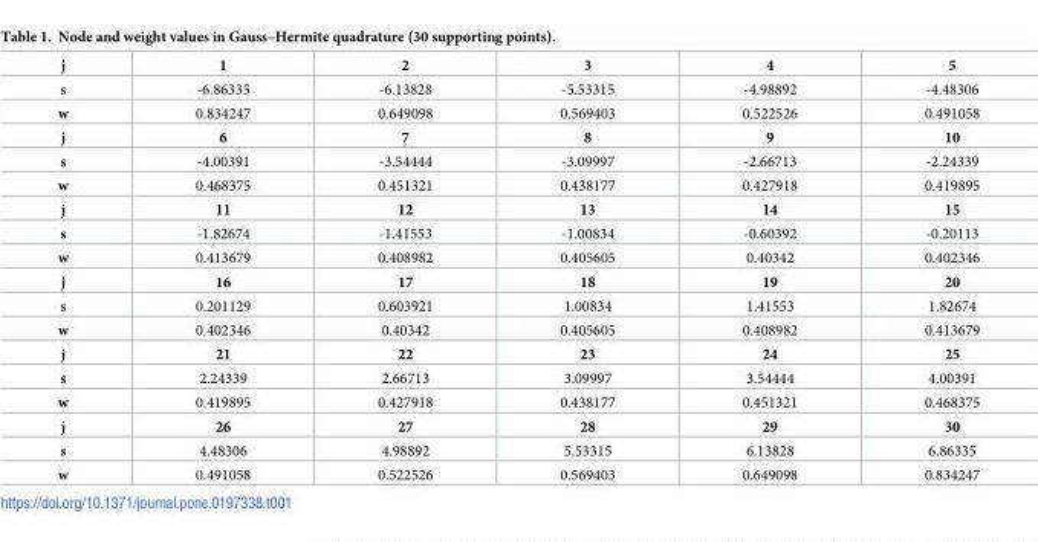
<table><tbody><tr><td>j</td><td>1</td><td>2</td><td>3</td><td>4</td><td>5</td></tr><tr><td>s</td><td>-6.86335</td><td>-6.13828</td><td>-5.53315</td><td>-4.98892</td><td>-4.48306</td></tr><tr><td>w</td><td>0.834247</td><td>0.649098</td><td>0.569403</td><td>0.522526</td><td>0.491058</td></tr><tr><td>j</td><td>6</td><td>7</td><td>8</td><td>9</td><td>10</td></tr><tr><td>s</td><td>-4.00391</td><td>-3.54444</td><td>-3.09997</td><td>-2.66713</td><td>-2.24339</td></tr><tr><td>w</td><td>0.468375</td><td>0.451321</td><td>0.438177</td><td>0.427918</td><td>0.419895</td></tr><tr><td>j</td><td>11</td><td>12</td><td>13</td><td>14</td><td>15</td></tr><tr><td>s</td><td>-1.82674</td><td>-1.41553</td><td>-1.00834</td><td>-0.60392</td><td>-0.20113</td></tr><tr><td>w</td><td>0.413679</td><td>0.408982</td><td>0.405605</td><td>0.40342</td><td>0.402346</td></tr><tr><td>j</td><td>16</td><td>17</td><td>18</td><td>19</td><td>20</td></tr><tr><td>s</td><td>0.201129</td><td>0.603921</td><td>1.00834</td><td>1.41553</td><td>1.82674</td></tr><tr><td>w</td><td>0.402346</td><td>0.40342</td><td>0.405605</td><td>0.408982</td><td>0.413679</td></tr><tr><td>j</td><td>21</td><td>22</td><td>23</td><td>24</td><td>25</td></tr><tr><td>s</td><td>2.24339</td><td>2.66713</td><td>3.09997</td><td>3.54444</td><td>4.00391</td></tr><tr><td>w</td><td>0.419895</td><td>0.427918</td><td>0.438177</td><td>0.451321</td><td>0.468375</td></tr><tr><td>j</td><td>26</td><td>27</td><td>28</td><td>29</td><td>30</td></tr><tr><td>s</td><td>4.48306</td><td>4.98892</td><td>5.53315</td><td>6.13828</td><td>6.86335</td></tr><tr><td>w</td><td>0.491058</td><td>0.522526</td><td>0.569403</td><td>0.649098</td><td>0.834247</td></tr></tbody></table>